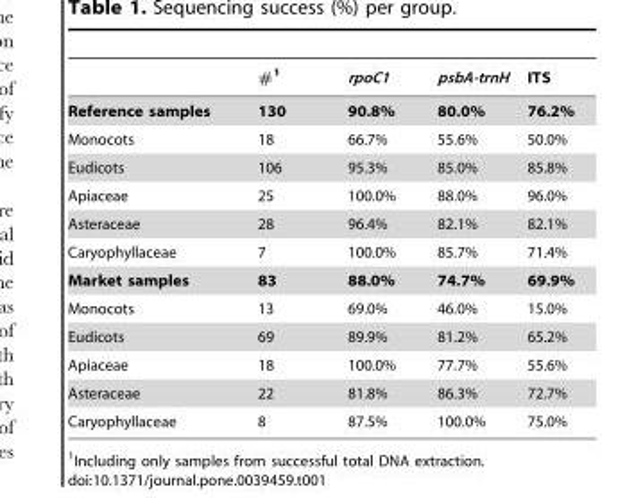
<table><thead><tr><td></td><td>#<sup>1</sup></td><td>rpoC1</td><td>psbA-trnH</td><td>ITS</td></tr></thead><tbody><tr><td>Reference samples</td><td>130</td><td>90.8%</td><td>80.0%</td><td>76.2%</td></tr><tr><td>Monocots</td><td>18</td><td>66.7%</td><td>55.6%</td><td>50.0%</td></tr><tr><td>Eudicots</td><td>106</td><td>95.3%</td><td>85.0%</td><td>85.8%</td></tr><tr><td>Apiaceae</td><td>25</td><td>100.0%</td><td>88.0%</td><td>96.0%</td></tr><tr><td>Asteraceae</td><td>28</td><td>96.4%</td><td>82.1%</td><td>82.1%</td></tr><tr><td>Caryophyllaceae</td><td>7</td><td>100.0%</td><td>85.7%</td><td>71.4%</td></tr><tr><td>Market samples</td><td>83</td><td>88.0%</td><td>74.7%</td><td>69.9%</td></tr><tr><td>Monocots</td><td>13</td><td>69.0%</td><td>46.0%</td><td>15.0%</td></tr><tr><td>Eudicots</td><td>69</td><td>89.9%</td><td>81.2%</td><td>65.2%</td></tr><tr><td>Apiaceae</td><td>18</td><td>100.0%</td><td>77.7%</td><td>55.6%</td></tr><tr><td>Asteraceae</td><td>22</td><td>81.8%</td><td>86.3%</td><td>72.7%</td></tr><tr><td>Caryophyllaceae</td><td>8</td><td>87.5%</td><td>100.0%</td><td>75.0%</td></tr></tbody></table>